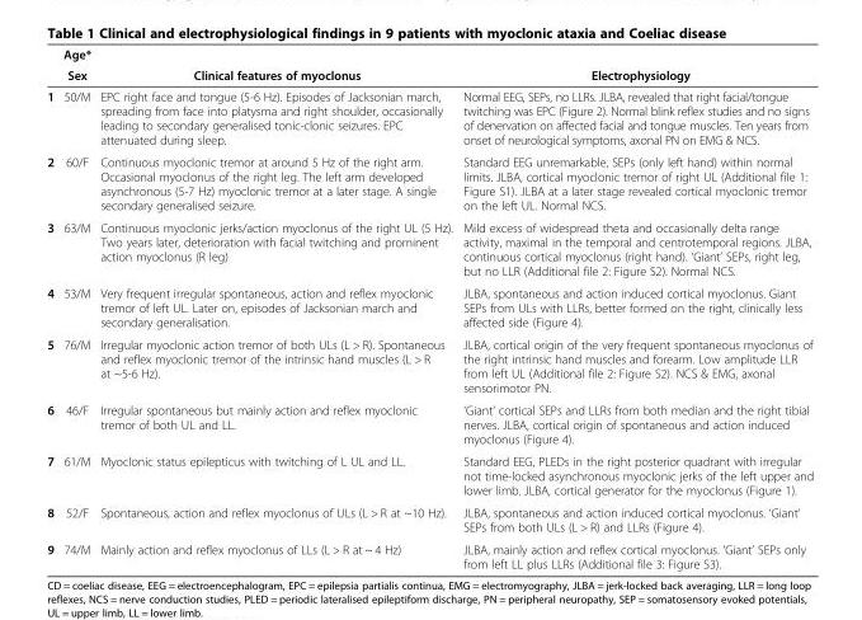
<table><thead><tr><td rowspan="2"></td><td rowspan="2">Age* Sex</td><td rowspan="2">Clinical features of myoclonus</td><td rowspan="2">Electrophysiology</td></tr><tr></tr></thead><tbody><tr><td>1</td><td>50/M</td><td>EPC right face and tongue (5-6 Hz). Episodes of Jacksonian march, spreading from face into platysma and right shoulder, occasionally leading to secondary generalised tonic-clonic seizures. EPC attenuated during sleep.</td><td>Normal EEG, SEPs, no LLRs. JLBA, revealed that right facial/tongue twitching was EPC (Figure 2). Normal blink reflex studies and no signs of denervation on affected facial and tongue muscles. Ten years from onset of neurological symptoms, axonal PN on EMG &amp; NCS.</td></tr><tr><td>2</td><td>60/F</td><td>Continuous myoclonic tremor at around 5 Hz of the right arm. Occasional myoclonus of the right leg. The left arm developed asynchronous (5-7 Hz) myoclonic tremor at a later stage. A single secondary generalised seizure.</td><td>Standard EEG unremarkable, SEPs (only left hand) within normal limits. JLBA, cortical myoclonic tremor of right UL (Additional file 1: Figure S1). JLBA at a later stage revealed cortical myoclonic tremor on the left UL. Normal NCS.</td></tr><tr><td>3</td><td>63/M</td><td>Continuous myoclonic jerks/action myoclonus of the right UL (5 Hz). Two years later, deterioration with facial twitching and prominent action myoclonus (R leg)</td><td>Mild excess of widespread theta and occasionally delta range activity, maximal in the temporal and centrotemporal regions. JLBA, continuous cortical myoclonus (right hand). ‘Giant’ SEPs, right leg, but no LLR (Additional file 2: Figure S2). Normal NCS.</td></tr><tr><td>4</td><td>53/M</td><td>Very frequent irregular spontaneous, action and reflex myoclonic tremor of left UL. Later on, episodes of Jacksonian march and secondary generalisation.</td><td>JLBA, spontaneous and action induced cortical myoclonus. Giant SEPs from ULs with LLRs, better formed on the right, clinically less affected side (Figure 4).</td></tr><tr><td>5</td><td>76/M</td><td>Irregular myoclonic action tremor of both ULs (L &gt; R). Spontaneous and reflex myoclonic tremor of the intrinsic hand muscles (L &gt; R at ~5-6 Hz).</td><td>JLBA, cortical origin of the very frequent spontaneous myoclonus of the right intrinsic hand muscles and forearm. Low amplitude LLR from left UL (Additional file 2: Figure S2). NCS &amp; EMG, axonal sensorimotor PN.</td></tr><tr><td>6</td><td>46/F</td><td>Irregular spontaneous but mainly action and reflex myoclonic tremor of both UL and LL.</td><td>‘Giant’ cortical SEPs and LLRs from both median and the right tibial nerves. JLBA, cortical origin of spontaneous and action induced myoclonus (Figure 4).</td></tr><tr><td>7</td><td>61/M</td><td>Myoclonic status epilepticus with twitching of L UL and LL.</td><td>Standard EEG, PLEDs in the right posterior quadrant with irregular not time-locked asynchronous myoclonic jerks of the left upper and lower limb. JLBA, cortical generator for the myoclonus (Figure 1).</td></tr><tr><td>8</td><td>52/F</td><td>Spontaneous, action and reflex myoclonus of ULs (L &gt; R at ~10 Hz).</td><td>JLBA, spontaneous and action induced cortical myoclonus. ‘Giant’ SEPs from both ULs (L &gt; R) and LLRs (Figure 4).</td></tr><tr><td>9</td><td>74/M</td><td>Mainly action and reflex myoclonus of LLs (L &gt; R at ~ 4 Hz)</td><td>JLBA, mainly action and reflex cortical myoclonus. ‘Giant’ SEPs only from left LL plus LLRs (Additional file 3: Figure S3).</td></tr></tbody></table>